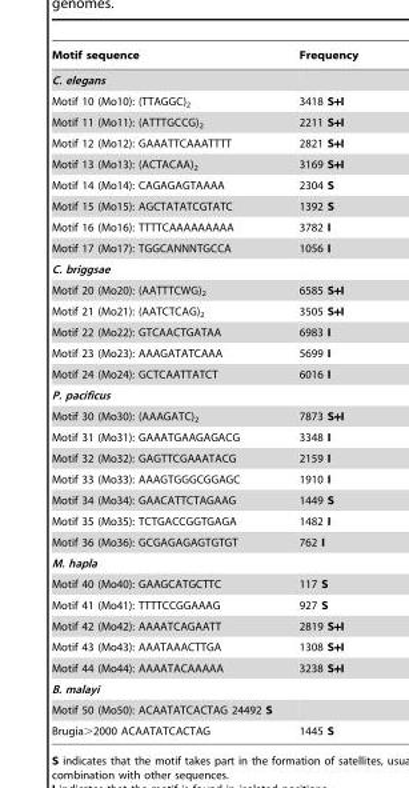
<table><thead><tr><td>Motif sequence</td><td>Frequency</td></tr></thead><tbody><tr><td colspan="2">C. elegans</td></tr><tr><td>Motif 10 (Mo10): (TTAGGC)<sub>2</sub></td><td>3418 S+I</td></tr><tr><td>Motif 11 (Mo11): (ATTTGCCG)<sub>2</sub></td><td>2211 S+I</td></tr><tr><td>Motif 12 (Mo12): GAAATTCAAATTTT</td><td>2821 S+I</td></tr><tr><td>Motif 13 (Mo13): (ACTACAA)<sub>2</sub></td><td>3169 S+I</td></tr><tr><td>Motif 14 (Mo14): CAGAGAGTAAAA</td><td>2304 S</td></tr><tr><td>Motif 15 (Mo15): AGCTATATCGTATC</td><td>1392 S</td></tr><tr><td>Motif 16 (Mo16): TTTTCAAAAAAAAA</td><td>3782 I</td></tr><tr><td>Motif 17 (Mo17): TGGCANNNTGCCA</td><td>1056 I</td></tr><tr><td colspan="2">C. briggsae</td></tr><tr><td>Motif 20 (Mo20): (AATTTCWG)<sub>2</sub></td><td>6585 S+I</td></tr><tr><td>Motif 21 (Mo21): (AATCTCAG)<sub>2</sub></td><td>3505 S+I</td></tr><tr><td>Motif 22 (Mo22): GTCAACTGATAA</td><td>6983 I</td></tr><tr><td>Motif 23 (Mo23): AAAGATATCAAA</td><td>5699 I</td></tr><tr><td>Motif 24 (Mo24): GCTCAATTATCT</td><td>6016 I</td></tr><tr><td colspan="2">P. pacificus</td></tr><tr><td>Motif 30 (Mo30): (AAAGATC)<sub>2</sub></td><td>7873 S+I</td></tr><tr><td>Motif 31 (Mo31): GAAATGAAGAGACG</td><td>3348 I</td></tr><tr><td>Motif 32 (Mo32): GAGTTCGAAATACG</td><td>2159 I</td></tr><tr><td>Motif 33 (Mo33): AAAGTGGGCGGAGC</td><td>1910 I</td></tr><tr><td>Motif 34 (Mo34): GAACATTCTAGAAG</td><td>1449 S</td></tr><tr><td>Motif 35 (Mo35): TCTGACCGGTGAGA</td><td>1482 I</td></tr><tr><td>Motif 36 (Mo36): GCGAGAGAGTGTGT</td><td>762 I</td></tr><tr><td colspan="2">M. hapla</td></tr><tr><td>Motif 40 (Mo40): GAAGCATGCTTC</td><td>117 S</td></tr><tr><td>Motif 41 (Mo41): TTTTCCGGAAAG</td><td>927 S</td></tr><tr><td>Motif 42 (Mo42): AAAATCAGAATT</td><td>2819 S+I</td></tr><tr><td>Motif 43 (Mo43): AAATAAACTTGA</td><td>1308 S+I</td></tr><tr><td>Motif 44 (Mo44): AAAATACAAAAA</td><td>3238 S+I</td></tr><tr><td colspan="2">B. malayi</td></tr><tr><td colspan="2">Motif 50 (Mo50): ACAATATCACTAG 24492 S</td></tr><tr><td>Brugia&gt;2000 ACAATATCACTAG</td><td>1445 S</td></tr></tbody></table>